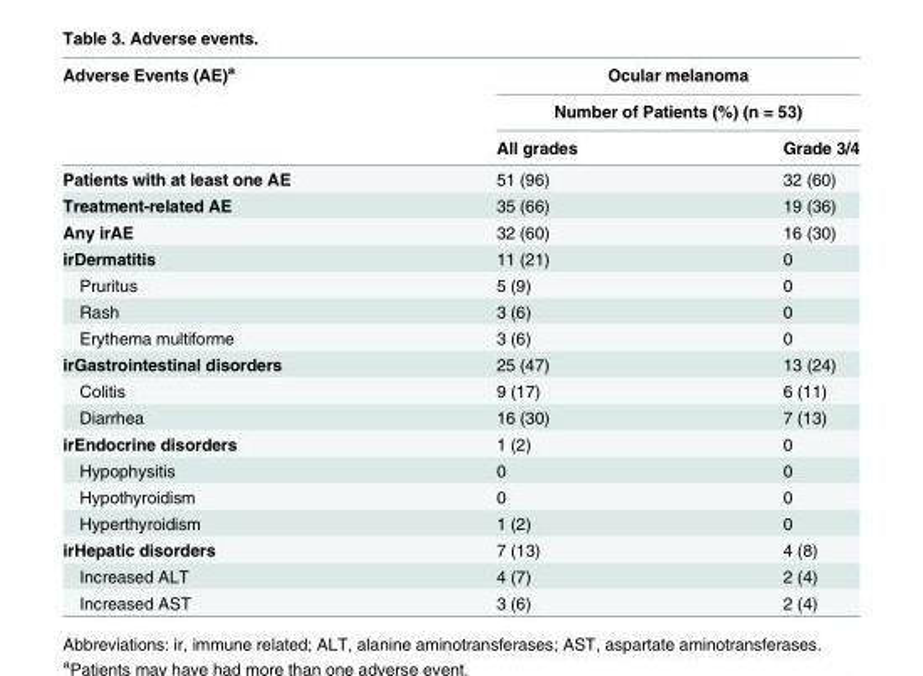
<table><thead><tr><td rowspan="3">Adverse Events (AE)<sup>a</sup></td><td rowspan="2" colspan="2">Ocular melanoma Number of Patients (%) (n = 53)</td></tr><tr></tr><tr><td>All grades</td><td>Grade 3/4</td></tr></thead><tbody><tr><td>Patients with at least one AE</td><td>51 (96)</td><td>32 (60)</td></tr><tr><td>Treatment-related AE</td><td>35 (66)</td><td>19 (36)</td></tr><tr><td>Any irAE</td><td>32 (60)</td><td>16 (30)</td></tr><tr><td>irDermatitis</td><td>11 (21)</td><td>0</td></tr><tr><td>Pruritus</td><td>5 (9)</td><td>0</td></tr><tr><td>Rash</td><td>3 (6)</td><td>0</td></tr><tr><td>Erythema multiforme</td><td>3 (6)</td><td>0</td></tr><tr><td>irGastrointestinal disorders</td><td>25 (47)</td><td>13 (24)</td></tr><tr><td>Colitis</td><td>9 (17)</td><td>6 (11)</td></tr><tr><td>Diarrhea</td><td>16 (30)</td><td>7 (13)</td></tr><tr><td>irEndocrine disorders</td><td>1 (2)</td><td>0</td></tr><tr><td>Hypophysitis</td><td>0</td><td>0</td></tr><tr><td>Hypothyroidism</td><td>0</td><td>0</td></tr><tr><td>Hyperthyroidism</td><td>1 (2)</td><td>0</td></tr><tr><td>irHepatic disorders</td><td>7 (13)</td><td>4 (8)</td></tr><tr><td>Increased ALT</td><td>4 (7)</td><td>2 (4)</td></tr><tr><td>Increased AST</td><td>3 (6)</td><td>2 (4)</td></tr></tbody></table>